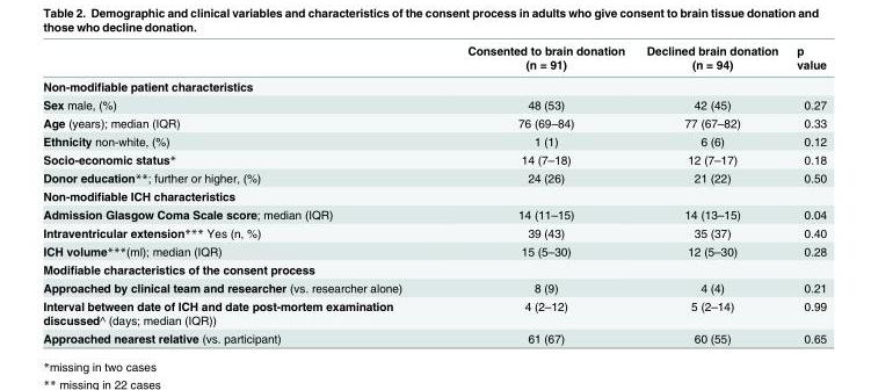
<table><thead><tr><td></td><td>Consented to brain donation (n = 91)</td><td>Declined brain donation (n = 94)</td><td>p value</td></tr></thead><tbody><tr><td colspan="4">Non-modifiable patient characteristics</td></tr><tr><td>Sex male, (%)</td><td>48 (53)</td><td>42 (45)</td><td>0.27</td></tr><tr><td>Age (years); median (IQR)</td><td>76 (69–84)</td><td>77 (67–82)</td><td>0.33</td></tr><tr><td>Ethnicity non-white, (%)</td><td>1 (1)</td><td>6 (6)</td><td>0.12</td></tr><tr><td>Socio-economic status*</td><td>14 (7–18)</td><td>12 (7–17)</td><td>0.18</td></tr><tr><td>Donor education**; further or higher, (%)</td><td>24 (26)</td><td>21 (22)</td><td>0.50</td></tr><tr><td colspan="4">Non-modifiable ICH characteristics</td></tr><tr><td>Admission Glasgow Coma Scale score; median (IQR)</td><td>14 (11–15)</td><td>14 (13–15)</td><td>0.04</td></tr><tr><td>Intraventricular extension*** Yes (n, %)</td><td>39 (43)</td><td>35 (37)</td><td>0.40</td></tr><tr><td>ICH volume***(ml); median (IQR)</td><td>15 (5–30)</td><td>12 (5–30)</td><td>0.28</td></tr><tr><td colspan="4">Modifiable characteristics of the consent process</td></tr><tr><td>Approached by clinical team and researcher (vs. researcher alone)</td><td>8 (9)</td><td>4 (4)</td><td>0.21</td></tr><tr><td>Interval between date of ICH and date post-mortem examination discussed^ (days; median (IQR))</td><td>4 (2–12)</td><td>5 (2–14)</td><td>0.99</td></tr><tr><td>Approached nearest relative (vs. participant)</td><td>61 (67)</td><td>60 (55)</td><td>0.65</td></tr></tbody></table>